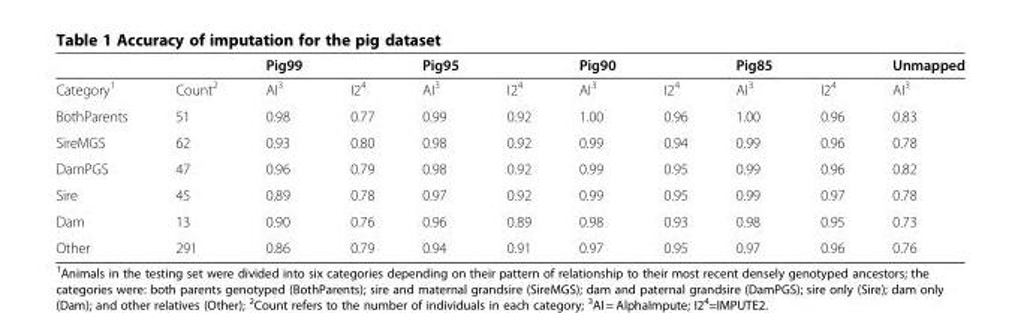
<table><thead><tr><td></td><td></td><td>Pig99</td><td></td><td>Pig95</td><td></td><td>Pig90</td><td></td><td>Pig85</td><td></td><td>Unmapped</td></tr></thead><tbody><tr><td>Category<sup>1</sup></td><td>Count<sup>2</sup></td><td>AI<sup>3</sup></td><td>I2<sup>4</sup></td><td>AI<sup>3</sup></td><td>I2<sup>4</sup></td><td>AI<sup>3</sup></td><td>I2<sup>4</sup></td><td>AI<sup>3</sup></td><td>I2<sup>4</sup></td><td>AI<sup>3</sup></td></tr><tr><td>BothParents</td><td>51</td><td>0.98</td><td>0.77</td><td>0.99</td><td>0.92</td><td>1.00</td><td>0.96</td><td>1.00</td><td>0.96</td><td>0.83</td></tr><tr><td>SireMGS</td><td>62</td><td>0.93</td><td>0.80</td><td>0.98</td><td>0.92</td><td>0.99</td><td>0.94</td><td>0.99</td><td>0.96</td><td>0.78</td></tr><tr><td>DamPGS</td><td>47</td><td>0.96</td><td>0.79</td><td>0.98</td><td>0.92</td><td>0.99</td><td>0.95</td><td>0.99</td><td>0.96</td><td>0.82</td></tr><tr><td>Sire</td><td>45</td><td>0.89</td><td>0.78</td><td>0.97</td><td>0.92</td><td>0.99</td><td>0.95</td><td>0.99</td><td>0.97</td><td>0.78</td></tr><tr><td>Dam</td><td>13</td><td>0.90</td><td>0.76</td><td>0.96</td><td>0.89</td><td>0.98</td><td>0.93</td><td>0.98</td><td>0.95</td><td>0.73</td></tr><tr><td>Other</td><td>291</td><td>0.86</td><td>0.79</td><td>0.94</td><td>0.91</td><td>0.97</td><td>0.95</td><td>0.97</td><td>0.96</td><td>0.76</td></tr></tbody></table>